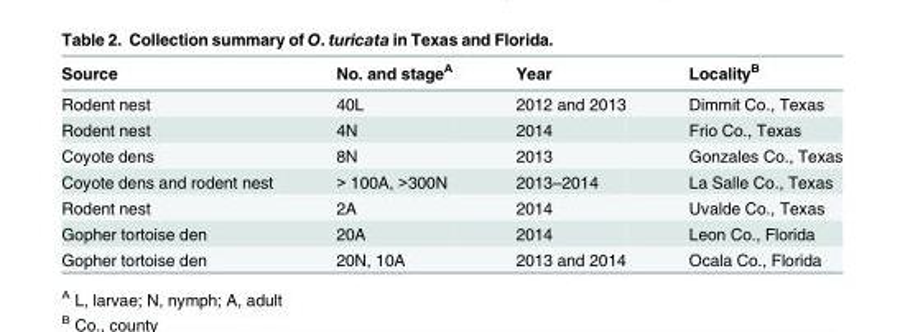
<table><thead><tr><td>Source</td><td>No. and stage<sup>A</sup></td><td>Year</td><td>Locality<sup>B</sup></td></tr></thead><tbody><tr><td>Rodent nest</td><td>40L</td><td>2012 and 2013</td><td>Dimmit Co., Texas</td></tr><tr><td>Rodent nest</td><td>4N</td><td>2014</td><td>Frio Co., Texas</td></tr><tr><td>Coyote dens</td><td>8N</td><td>2013</td><td>Gonzales Co., Texas</td></tr><tr><td>Coyote dens and rodent nest</td><td>&gt; 100A, &gt;300N</td><td>2013–2014</td><td>La Salle Co., Texas</td></tr><tr><td>Rodent nest</td><td>2A</td><td>2014</td><td>Uvalde Co., Texas</td></tr><tr><td>Gopher tortoise den</td><td>20A</td><td>2014</td><td>Leon Co., Florida</td></tr><tr><td>Gopher tortoise den</td><td>20N, 10A</td><td>2013 and 2014</td><td>Ocala Co., Florida</td></tr></tbody></table>